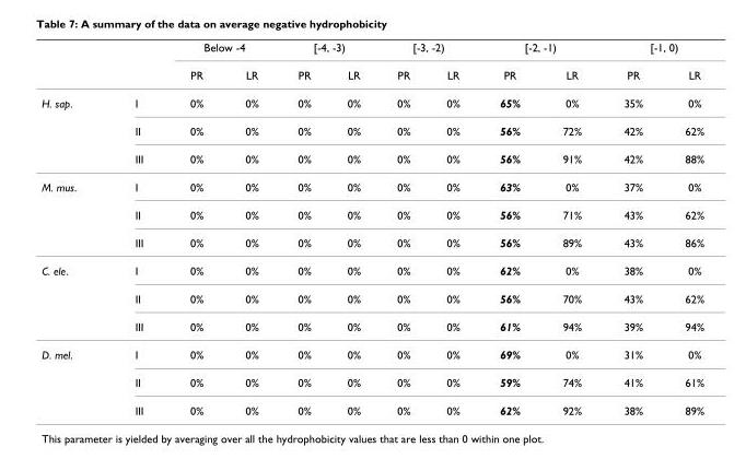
<table><thead><tr><td rowspan="2"></td><td rowspan="2"></td><td colspan="2">Below -4</td><td colspan="2">[-4, -3)</td><td colspan="2">[-3, -2)</td><td colspan="2">[-2, -1)</td><td colspan="2">[-1, 0)</td></tr><tr><td>PR</td><td>LR</td><td>PR</td><td>LR</td><td>PR</td><td>LR</td><td>PR</td><td>LR</td><td>PR</td><td>LR</td></tr></thead><tbody><tr><td rowspan="3">H. sap.</td><td>I</td><td>0%</td><td>0%</td><td>0%</td><td>0%</td><td>0%</td><td>0%</td><td>65%</td><td>0%</td><td>35%</td><td>0%</td></tr><tr><td>II</td><td>0%</td><td>0%</td><td>0%</td><td>0%</td><td>0%</td><td>0%</td><td>56%</td><td>72%</td><td>42%</td><td>62%</td></tr><tr><td>III</td><td>0%</td><td>0%</td><td>0%</td><td>0%</td><td>0%</td><td>0%</td><td>56%</td><td>91%</td><td>42%</td><td>88%</td></tr><tr><td rowspan="3">M. mus.</td><td>I</td><td>0%</td><td>0%</td><td>0%</td><td>0%</td><td>0%</td><td>0%</td><td>63%</td><td>0%</td><td>37%</td><td>0%</td></tr><tr><td>II</td><td>0%</td><td>0%</td><td>0%</td><td>0%</td><td>0%</td><td>0%</td><td>56%</td><td>71%</td><td>43%</td><td>62%</td></tr><tr><td>III</td><td>0%</td><td>0%</td><td>0%</td><td>0%</td><td>0%</td><td>0%</td><td>56%</td><td>89%</td><td>43%</td><td>86%</td></tr><tr><td rowspan="3">C. ele.</td><td>I</td><td>0%</td><td>0%</td><td>0%</td><td>0%</td><td>0%</td><td>0%</td><td>62%</td><td>0%</td><td>38%</td><td>0%</td></tr><tr><td>II</td><td>0%</td><td>0%</td><td>0%</td><td>0%</td><td>0%</td><td>0%</td><td>56%</td><td>70%</td><td>43%</td><td>62%</td></tr><tr><td>III</td><td>0%</td><td>0%</td><td>0%</td><td>0%</td><td>0%</td><td>0%</td><td>61%</td><td>94%</td><td>39%</td><td>94%</td></tr><tr><td rowspan="3">D. mel.</td><td>I</td><td>0%</td><td>0%</td><td>0%</td><td>0%</td><td>0%</td><td>0%</td><td>69%</td><td>0%</td><td>31%</td><td>0%</td></tr><tr><td>II</td><td>0%</td><td>0%</td><td>0%</td><td>0%</td><td>0%</td><td>0%</td><td>59%</td><td>74%</td><td>41%</td><td>61%</td></tr><tr><td>III</td><td>0%</td><td>0%</td><td>0%</td><td>0%</td><td>0%</td><td>0%</td><td>62%</td><td>92%</td><td>38%</td><td>89%</td></tr></tbody></table>